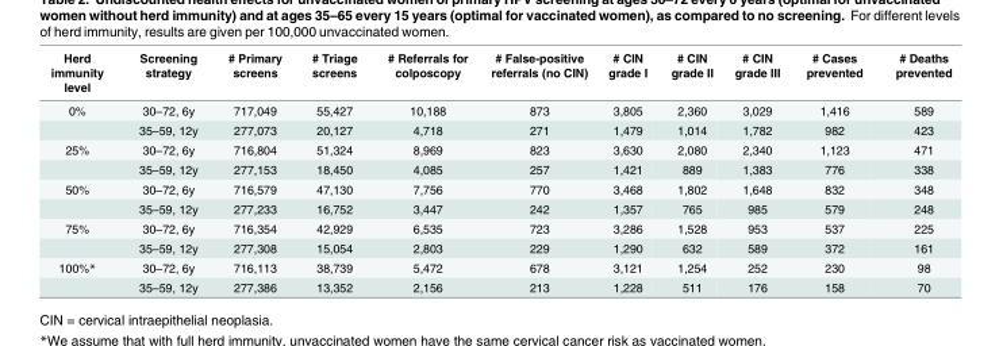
<table><thead><tr><td>Herd immunity level</td><td>Screening strategy</td><td># Primary screens</td><td># Triage screens</td><td># Referrals for colposcopy</td><td># False-positive referrals (no CIN)</td><td># CIN grade I</td><td># CIN grade II</td><td># CIN grade III</td><td># Cases prevented</td><td># Deaths prevented</td></tr></thead><tbody><tr><td rowspan="2">0%</td><td>30–72, 6y</td><td>717,049</td><td>55,427</td><td>10,188</td><td>873</td><td>3,805</td><td>2,360</td><td>3,029</td><td>1,416</td><td>589</td></tr><tr><td>35–59, 12y</td><td>277,073</td><td>20,127</td><td>4,718</td><td>271</td><td>1,479</td><td>1,014</td><td>1,782</td><td>982</td><td>423</td></tr><tr><td rowspan="2">25%</td><td>30–72, 6y</td><td>716,804</td><td>51,324</td><td>8,969</td><td>823</td><td>3,630</td><td>2,080</td><td>2,340</td><td>1,123</td><td>471</td></tr><tr><td>35–59, 12y</td><td>277,153</td><td>18,450</td><td>4,085</td><td>257</td><td>1,421</td><td>889</td><td>1,383</td><td>776</td><td>338</td></tr><tr><td rowspan="2">50%</td><td>30–72, 6y</td><td>716,579</td><td>47,130</td><td>7,756</td><td>770</td><td>3,468</td><td>1,802</td><td>1,648</td><td>832</td><td>348</td></tr><tr><td>35–59, 12y</td><td>277,233</td><td>16,752</td><td>3,447</td><td>242</td><td>1,357</td><td>765</td><td>985</td><td>579</td><td>248</td></tr><tr><td rowspan="2">75%</td><td>30–72, 6y</td><td>716,354</td><td>42,929</td><td>6,535</td><td>723</td><td>3,286</td><td>1,528</td><td>953</td><td>537</td><td>225</td></tr><tr><td>35–59, 12y</td><td>277,308</td><td>15,054</td><td>2,803</td><td>229</td><td>1,290</td><td>632</td><td>589</td><td>372</td><td>161</td></tr><tr><td rowspan="2">100%*</td><td>30–72, 6y</td><td>716,113</td><td>38,739</td><td>5,472</td><td>678</td><td>3,121</td><td>1,254</td><td>252</td><td>230</td><td>98</td></tr><tr><td>35–59, 12y</td><td>277,386</td><td>13,352</td><td>2,156</td><td>213</td><td>1,228</td><td>511</td><td>176</td><td>158</td><td>70</td></tr></tbody></table>